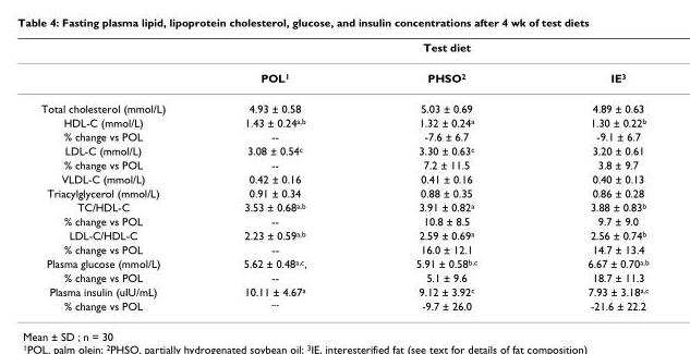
<table><thead><tr><td rowspan="2"></td><td colspan="3">Test diet</td></tr><tr><td>POL<sup>1</sup></td><td>PHSO<sup>2</sup></td><td>IE<sup>3</sup></td></tr></thead><tbody><tr><td>Total cholesterol (mmol/L)</td><td>4.93 ± 0.58</td><td>5.03 ± 0.69</td><td>4.89 ± 0.63</td></tr><tr><td>HDL-C (mmol/L)</td><td>1.43 ± 0.24<sup>a,b</sup></td><td>1.32 ± 0.24<sup>a</sup></td><td>1.30 ± 0.22<sup>b</sup></td></tr><tr><td>% change vs POL</td><td>--</td><td>-7.6 ± 6.7</td><td>-9.1 ± 6.7</td></tr><tr><td>LDL-C (mmol/L)</td><td>3.08 ± 0.54<sup>c</sup></td><td>3.30 ± 0.63<sup>c</sup></td><td>3.20 ± 0.61</td></tr><tr><td>% change vs POL</td><td>--</td><td>7.2 ± 11.5</td><td>3.8 ± 9.7</td></tr><tr><td>VLDL-C (mmol/L)</td><td>0.42 ± 0.16</td><td>0.41 ± 0.16</td><td>0.40 ± 0.13</td></tr><tr><td>Triacylglycerol (mmol/L)</td><td>0.91 ± 0.34</td><td>0.88 ± 0.35</td><td>0.86 ± 0.28</td></tr><tr><td>TC/HDL-C</td><td>3.53 ± 0.68<sup>a,b</sup></td><td>3.91 ± 0.82<sup>a</sup></td><td>3.88 ± 0.83<sup>b</sup></td></tr><tr><td>% change vs POL</td><td>--</td><td>10.8 ± 8.5</td><td>9.7 ± 9.0</td></tr><tr><td>LDL-C/HDL-C</td><td>2.23 ± 0.59<sup>a,b</sup></td><td>2.59 ± 0.69<sup>a</sup></td><td>2.56 ± 0.74<sup>b</sup></td></tr><tr><td>% change vs POL</td><td>--</td><td>16.0 ± 12.1</td><td>14.7 ± 13.4</td></tr><tr><td>Plasma glucose (mmol/L)</td><td>5.62 ± 0.48<sup>a,c</sup>,</td><td>5.91 ± 0.58<sup>b,c</sup></td><td>6.67 ± 0.70<sup>a,b</sup></td></tr><tr><td>% change vs POL</td><td>--</td><td>5.1 ± 9.6</td><td>18.7 ± 11.3</td></tr><tr><td>Plasma insulin (uIU/mL)</td><td>10.11 ± 4.67<sup>a</sup></td><td>9.12 ± 3.92<sup>c</sup></td><td>7.93 ± 3.18<sup>a,c</sup></td></tr><tr><td>% change vs POL</td><td><sup>---</sup></td><td>-9.7 ± 26.0</td><td>-21.6 ± 22.2</td></tr></tbody></table>